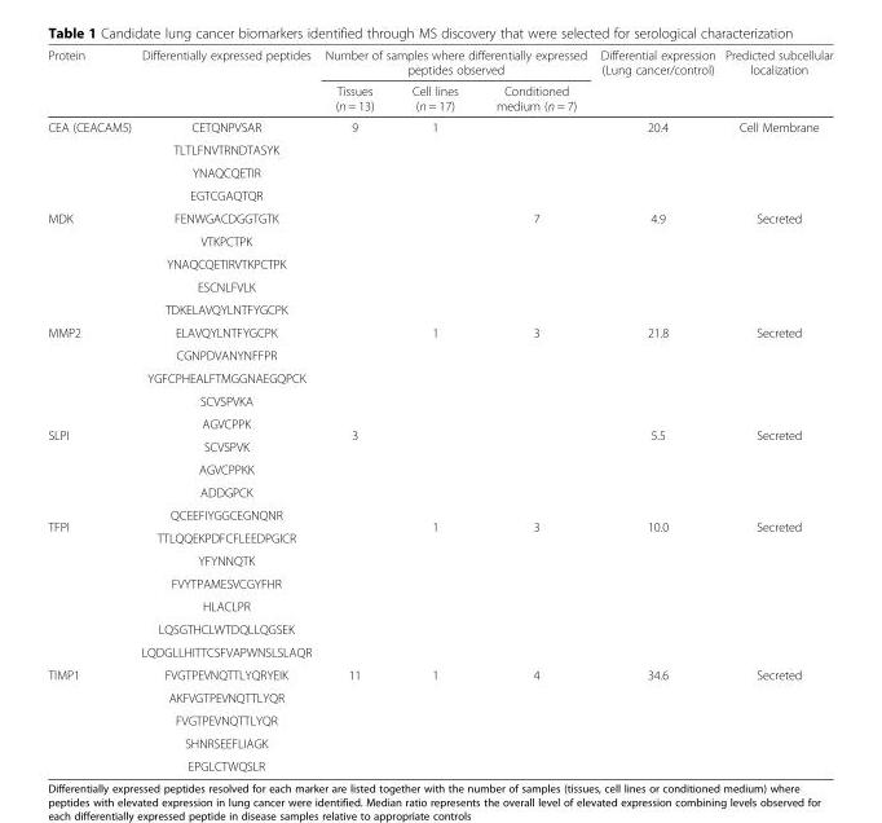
<table><thead><tr><td rowspan="2">Protein</td><td rowspan="2">Differentially expressed peptides</td><td colspan="3">Number of samples where differentially expressed peptides observed</td><td rowspan="2">Differential expression (Lung cancer/control)</td><td rowspan="2">Predicted subcellular localization</td></tr><tr><td>Tissues (n = 13)</td><td>Cell lines (n = 17)</td><td>Conditioned medium (n = 7)</td></tr></thead><tbody><tr><td rowspan="2">CEA (CEACAM5)</td><td>CETQNPVSAR</td><td rowspan="7">9</td><td rowspan="7">1</td><td rowspan="2"></td><td rowspan="2">20.4</td><td rowspan="2">Cell Membrane</td></tr><tr><td>TLTLFNVTRNDTASYK</td></tr><tr><td rowspan="5">MDK</td><td>YNAQCQETIR</td><td rowspan="5">7</td><td rowspan="5">4.9</td><td rowspan="5">Secreted</td></tr><tr><td>EGTCGAQTQR</td></tr><tr><td>FENWGACDGGTGTK</td></tr><tr><td>VTKPCTPK</td></tr><tr><td>YNAQCQETIRVTKPCTPK</td></tr><tr><td rowspan="5">MMP2</td><td>ESCNLFVLK</td><td rowspan="5"></td><td rowspan="5">1</td><td rowspan="5">3</td><td rowspan="5">21.8</td><td rowspan="5">Secreted</td></tr><tr><td>TDKELAVQYLNTFYGCPK</td></tr><tr><td>ELAVQYLNTFYGCPK</td></tr><tr><td>CGNPDVANYNFFPR</td></tr><tr><td>YGFCPHEALFTMGGNAEGQPCK</td></tr><tr><td rowspan="4">SLPI</td><td>SCVSPVKA</td><td rowspan="4">3</td><td rowspan="4"></td><td rowspan="4"></td><td rowspan="4">5.5</td><td rowspan="4">Secreted</td></tr><tr><td>AGVCPPK</td></tr><tr><td>SCVSPVK</td></tr><tr><td>AGVCPPKK</td></tr><tr><td rowspan="4">TFPI</td><td>ADDGPCK</td><td rowspan="4"></td><td rowspan="4">1</td><td rowspan="4">3</td><td rowspan="4">10.0</td><td rowspan="4">Secreted</td></tr><tr><td>QCEEFIYGGCEGNQNR</td></tr><tr><td>TTLQQEKPDFCFLEEDPGICR</td></tr><tr><td>YFYNNQTK</td></tr><tr><td rowspan="9">TIMP1</td><td>FVYTPAMESVCGYFHR</td><td rowspan="9">11</td><td rowspan="9">1</td><td rowspan="9">4</td><td rowspan="9">34.6</td><td rowspan="9">Secreted</td></tr><tr><td>HLACLPR</td></tr><tr><td>LQSGTHCLWTDQLLQGSEK</td></tr><tr><td>LQDGLLHITTCSFVAPWNSLSLAQR</td></tr><tr><td>FVGTPEVNQTTLYQRYEIK</td></tr><tr><td>AKFVGTPEVNQTTLYQR</td></tr><tr><td>FVGTPEVNQTTLYQR</td></tr><tr><td>SHNRSEEFLIAGK</td></tr><tr><td>EPGLCTWQSLR</td></tr></tbody></table>